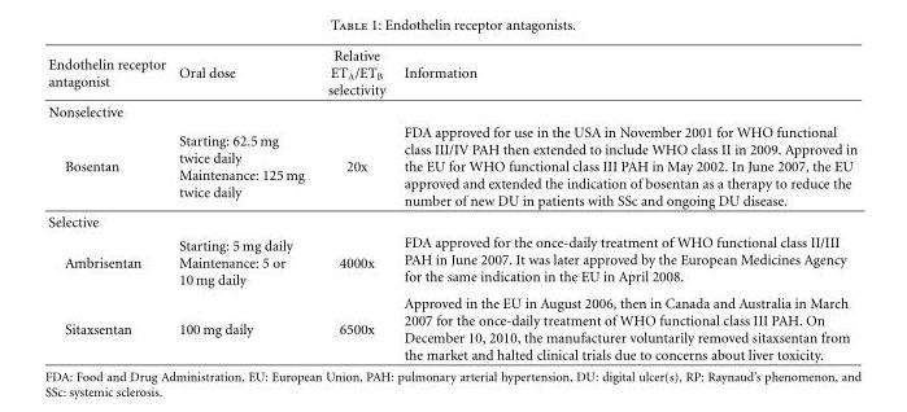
<table><thead><tr><td>Endothelin receptor antagonist</td><td>Oral dose</td><td>Relative ET<sub>A</sub>/ET<sub>B</sub> selectivity</td><td>Information</td></tr></thead><tbody><tr><td colspan="4">Nonselective</td></tr><tr><td>Bosentan</td><td>Starting: 62.5 mg twice daily Maintenance: 125 mg twice daily</td><td>20x</td><td>FDA approved for use in the USA in November 2001 for WHO functional class III/IV PAH then extended to include WHO class II in 2009. Approved in the EU for WHO functional class III PAH in May 2002. In June 2007, the EU approved and extended the indication of bosentan as a therapy to reduce the number of new DU in patients with SSc and ongoing DU disease.</td></tr><tr><td colspan="4">Selective</td></tr><tr><td>Ambrisentan</td><td>Starting: 5 mg daily Maintenance: 5 or 10 mg daily</td><td>4000x</td><td>FDA approved for the once-daily treatment of WHO functional class II/III PAH in June 2007. It was later approved by the European Medicines Agency for the same indication in the EU in April 2008.</td></tr><tr><td>Sitaxsentan</td><td>100 mg daily</td><td>6500x</td><td>Approved in the EU in August 2006, then in Canada and Australia in March 2007 for the once-daily treatment of WHO functional class III PAH. On December 10, 2010, the manufacturer voluntarily removed sitaxsentan from the market and halted clinical trials due to concerns about liver toxicity.</td></tr></tbody></table>